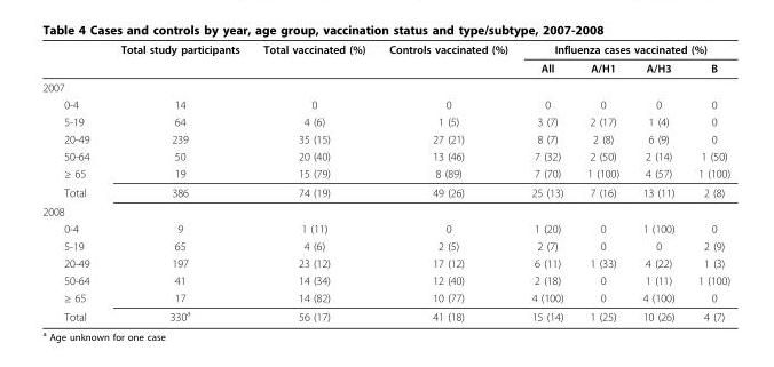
<table><thead><tr><td rowspan="2"></td><td rowspan="2">Total study participants</td><td rowspan="2">Total vaccinated (%)</td><td rowspan="2">Controls vaccinated (%)</td><td colspan="4">Influenza cases vaccinated (%)</td></tr><tr><td>All</td><td>A/H1</td><td>A/H3</td><td>B</td></tr></thead><tbody><tr><td colspan="8">2007</td></tr><tr><td>0-4</td><td>14</td><td>0</td><td>0</td><td>0</td><td>0</td><td>0</td><td>0</td></tr><tr><td>5-19</td><td>64</td><td>4 (6)</td><td>1 (5)</td><td>3 (7)</td><td>2 (17)</td><td>1 (4)</td><td>0</td></tr><tr><td>20-49</td><td>239</td><td>35 (15)</td><td>27 (21)</td><td>8 (7)</td><td>2 (8)</td><td>6 (9)</td><td>0</td></tr><tr><td>50-64</td><td>50</td><td>20 (40)</td><td>13 (46)</td><td>7 (32)</td><td>2 (50)</td><td>2 (14)</td><td>1 (50)</td></tr><tr><td>≥ 65</td><td>19</td><td>15 (79)</td><td>8 (89)</td><td>7 (70)</td><td>1 (100)</td><td>4 (57)</td><td>1 (100)</td></tr><tr><td>Total</td><td>386</td><td>74 (19)</td><td>49 (26)</td><td>25 (13)</td><td>7 (16)</td><td>13 (11)</td><td>2 (8)</td></tr><tr><td colspan="8">2008</td></tr><tr><td>0-4</td><td>9</td><td>1 (11)</td><td>0</td><td>1 (20)</td><td>0</td><td>1 (100)</td><td>0</td></tr><tr><td>5-19</td><td>65</td><td>4 (6)</td><td>2 (5)</td><td>2 (7)</td><td>0</td><td>0</td><td>2 (9)</td></tr><tr><td>20-49</td><td>197</td><td>23 (12)</td><td>17 (12)</td><td>6 (11)</td><td>1 (33)</td><td>4 (22)</td><td>1 (3)</td></tr><tr><td>50-64</td><td>41</td><td>14 (34)</td><td>12 (40)</td><td>2 (18)</td><td>0</td><td>1 (11)</td><td>1 (100)</td></tr><tr><td>≥ 65</td><td>17</td><td>14 (82)</td><td>10 (77)</td><td>4 (100)</td><td>0</td><td>4 (100)</td><td>0</td></tr><tr><td>Total</td><td>330<sup>a</sup></td><td>56 (17)</td><td>41 (18)</td><td>15 (14)</td><td>1 (25)</td><td>10 (26)</td><td>4 (7)</td></tr></tbody></table>